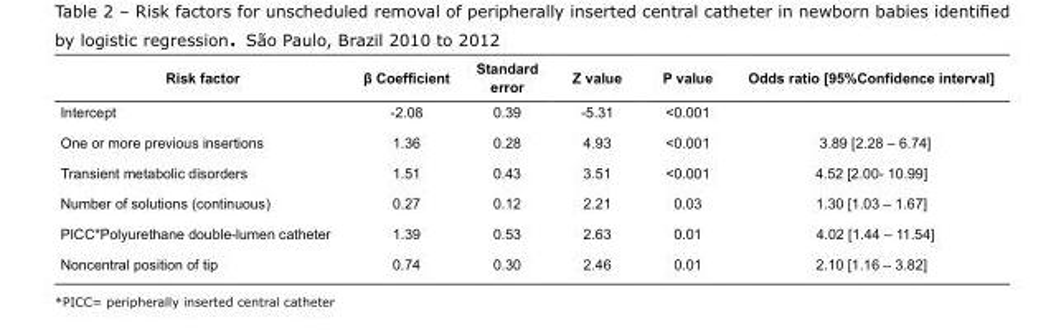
<table><thead><tr><td>Risk factor</td><td>β Coefficient</td><td>Standard error</td><td>Z value</td><td>P value</td><td>Odds ratio [95%Confidence interval]</td></tr></thead><tbody><tr><td>Intercept</td><td>-2.08</td><td>0.39</td><td>-5.31</td><td>&lt;0.001</td><td></td></tr><tr><td>One or more previous insertions</td><td>1.36</td><td>0.28</td><td>4.93</td><td>&lt;0.001</td><td>3.89 [2.28 – 6.74]</td></tr><tr><td>Transient metabolic disorders</td><td>1.51</td><td>0.43</td><td>3.51</td><td>&lt;0.001</td><td>4.52 [2.00- 10.99]</td></tr><tr><td>Number of solutions (continuous)</td><td>0.27</td><td>0.12</td><td>2.21</td><td>0.03</td><td>1.30 [1.03 – 1.67]</td></tr><tr><td>PICC*Polyurethane double-lumen catheter</td><td>1.39</td><td>0.53</td><td>2.63</td><td>0.01</td><td>4.02 [1.44 – 11.54]</td></tr><tr><td>Noncentral position of tip</td><td>0.74</td><td>0.30</td><td>2.46</td><td>0.01</td><td>2.10 [1.16 – 3.82]</td></tr></tbody></table>